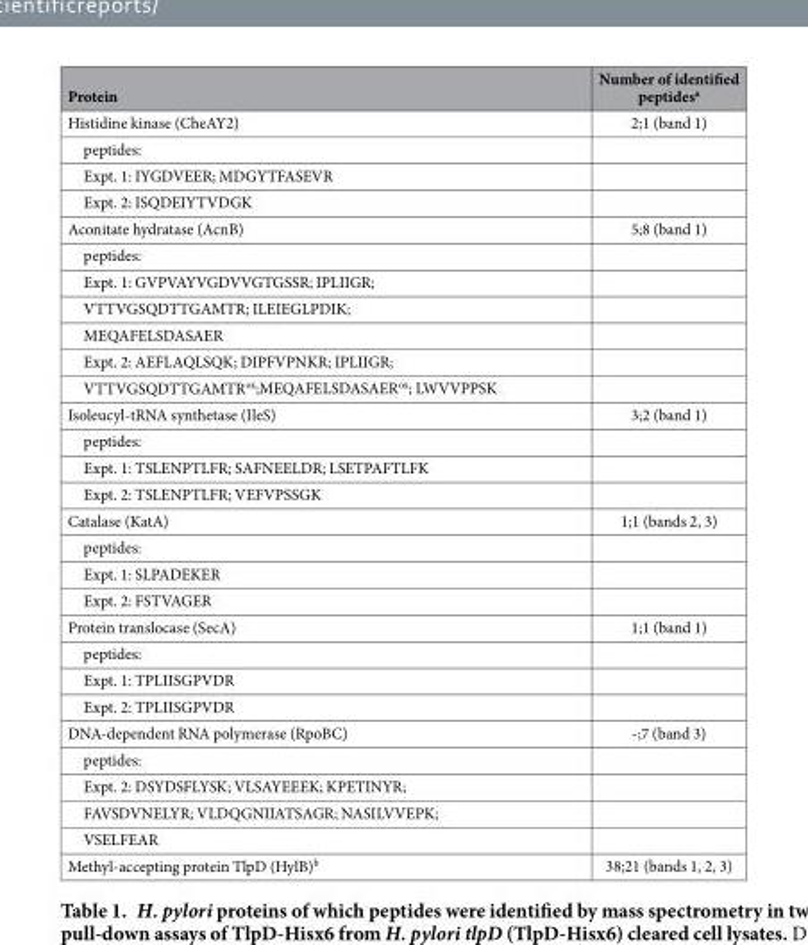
<table><thead><tr><td>Protein</td><td>Number of identified peptides<sup>a</sup></td></tr></thead><tbody><tr><td>Histidine kinase (CheAY2)</td><td>2;1 (band 1)</td></tr><tr><td colspan="2">peptides:</td></tr><tr><td colspan="2">Expt. 1: IYGDVEER; MDGYTFASEVR</td></tr><tr><td colspan="2">Expt. 2: ISQDEIYTVDGK</td></tr><tr><td>Aconitate hydratase (AcnB)</td><td>5;8 (band 1)</td></tr><tr><td colspan="2">peptides:</td></tr><tr><td colspan="2">Expt. 1: GVPVAYVGDVVGTGSSR; IPLIIGR;</td></tr><tr><td colspan="2">VTTVGSQDTTGAMTR; ILEIEGLPDIK;</td></tr><tr><td colspan="2">MEQAFELSDASAER</td></tr><tr><td colspan="2">Expt. 2: AEFLAQLSQK; DIPFVPNKR; IPLIIGR;</td></tr><tr><td colspan="2">VTTVGSQDTTGAMTR<sup>ox</sup>;MEQAFELSDASAER<sup>ox</sup>; LWVVPPSK</td></tr><tr><td>Isoleucyl-tRNA synthetase (IleS)</td><td>3;2 (band 1)</td></tr><tr><td colspan="2">peptides:</td></tr><tr><td colspan="2">Expt. 1: TSLENPTLFR; SAFNEELDR; LSETPAFTLFK</td></tr><tr><td colspan="2">Expt. 2: TSLENPTLFR; VEFVPSSGK</td></tr><tr><td>Catalase (KatA)</td><td>1;1 (bands 2, 3)</td></tr><tr><td colspan="2">peptides:</td></tr><tr><td colspan="2">Expt. 1: SLPADEKER</td></tr><tr><td colspan="2">Expt. 2: FSTVAGER</td></tr><tr><td>Protein translocase (SecA)</td><td>1;1 (band 1)</td></tr><tr><td colspan="2">peptides:</td></tr><tr><td colspan="2">Expt. 1: TPLIISGPVDR</td></tr><tr><td colspan="2">Expt. 2: TPLIISGPVDR</td></tr><tr><td>DNA-dependent RNA polymerase (RpoBC)</td><td>-;7 (band 3)</td></tr><tr><td colspan="2">peptides:</td></tr><tr><td colspan="2">Expt. 2: DSYDSFLYSK; VLSAYEEEK; KPETINYR;</td></tr><tr><td colspan="2">FAVSDVNELYR; VLDQGNIIATSAGR; NASILVVEPK;</td></tr><tr><td colspan="2">VSELFEAR</td></tr><tr><td>Methyl-accepting protein TlpD (HylB)<sup>b</sup></td><td>38;21 (bands 1, 2, 3)</td></tr></tbody></table>